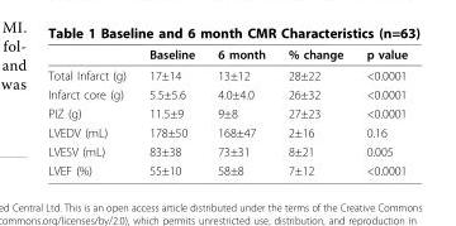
<table><thead><tr><td></td><td>Baseline</td><td>6 month</td><td>% change</td><td>p value</td></tr></thead><tbody><tr><td>Total Infarct (g)</td><td>17±14</td><td>13±12</td><td>28±22</td><td>&lt;0.0001</td></tr><tr><td>Infarct core (g)</td><td>5.5±5.6</td><td>4.0±4.0</td><td>26±32</td><td>&lt;0.0001</td></tr><tr><td>PIZ (g)</td><td>11.5±9</td><td>9±8</td><td>27±23</td><td>&lt;0.0001</td></tr><tr><td>LVEDV (mL)</td><td>178±50</td><td>168±47</td><td>2±16</td><td>0.16</td></tr><tr><td>LVESV (mL)</td><td>83±38</td><td>73±31</td><td>8±21</td><td>0.005</td></tr><tr><td>LVEF (%)</td><td>55±10</td><td>58±8</td><td>7±12</td><td>&lt;0.0001</td></tr></tbody></table>